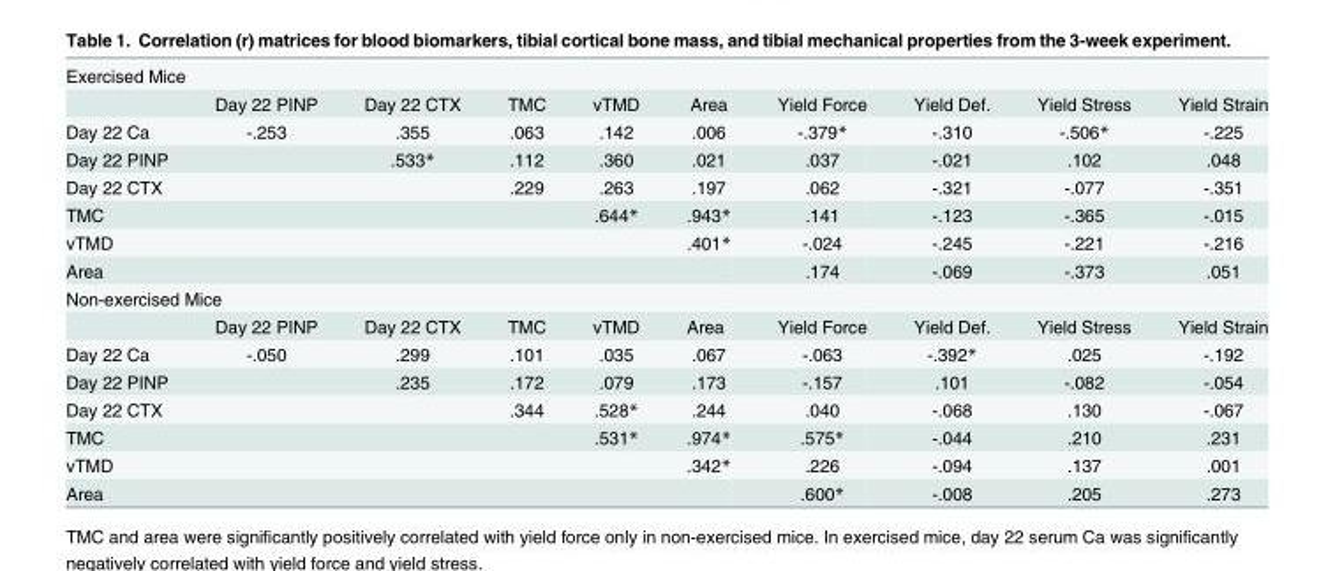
<table><tbody><tr><td colspan="10">Exercised Mice</td></tr><tr><td></td><td>Day 22 PINP</td><td>Day 22 CTX</td><td>TMC</td><td>vTMD</td><td>Area</td><td>Yield Force</td><td>Yield Def.</td><td>Yield Stress</td><td>Yield Strain</td></tr><tr><td>Day 22 Ca</td><td>-.253</td><td>.355</td><td>.063</td><td>.142</td><td>.006</td><td>-.379*</td><td>-.310</td><td>-.506*</td><td>-.225</td></tr><tr><td>Day 22 PINP</td><td></td><td>.533*</td><td>.112</td><td>.360</td><td>.021</td><td>.037</td><td>-.021</td><td>.102</td><td>.048</td></tr><tr><td>Day 22 CTX</td><td></td><td></td><td>.229</td><td>.263</td><td>.197</td><td>.062</td><td>-.321</td><td>-.077</td><td>-.351</td></tr><tr><td>TMC</td><td></td><td></td><td></td><td>.644*</td><td>.943*</td><td>.141</td><td>-.123</td><td>-.365</td><td>-.015</td></tr><tr><td>vTMD</td><td></td><td></td><td></td><td></td><td>.401*</td><td>-.024</td><td>-.245</td><td>-.221</td><td>-.216</td></tr><tr><td>Area</td><td></td><td></td><td></td><td></td><td></td><td>.174</td><td>-.069</td><td>-.373</td><td>.051</td></tr><tr><td colspan="10">Non-exercised Mice</td></tr><tr><td></td><td>Day 22 PINP</td><td>Day 22 CTX</td><td>TMC</td><td>vTMD</td><td>Area</td><td>Yield Force</td><td>Yield Def.</td><td>Yield Stress</td><td>Yield Strain</td></tr><tr><td>Day 22 Ca</td><td>-.050</td><td>.299</td><td>.101</td><td>.035</td><td>.067</td><td>-.063</td><td>-.392*</td><td>.025</td><td>-.192</td></tr><tr><td>Day 22 PINP</td><td></td><td>.235</td><td>.172</td><td>.079</td><td>.173</td><td>-.157</td><td>.101</td><td>-.082</td><td>-.054</td></tr><tr><td>Day 22 CTX</td><td></td><td></td><td>.344</td><td>.528*</td><td>.244</td><td>.040</td><td>-.068</td><td>.130</td><td>-.067</td></tr><tr><td>TMC</td><td></td><td></td><td></td><td>.531*</td><td>.974*</td><td>.575*</td><td>-.044</td><td>.210</td><td>.231</td></tr><tr><td>vTMD</td><td></td><td></td><td></td><td></td><td>.342*</td><td>.226</td><td>-.094</td><td>.137</td><td>.001</td></tr><tr><td>Area</td><td></td><td></td><td></td><td></td><td></td><td>.600*</td><td>-.008</td><td>.205</td><td>.273</td></tr></tbody></table>